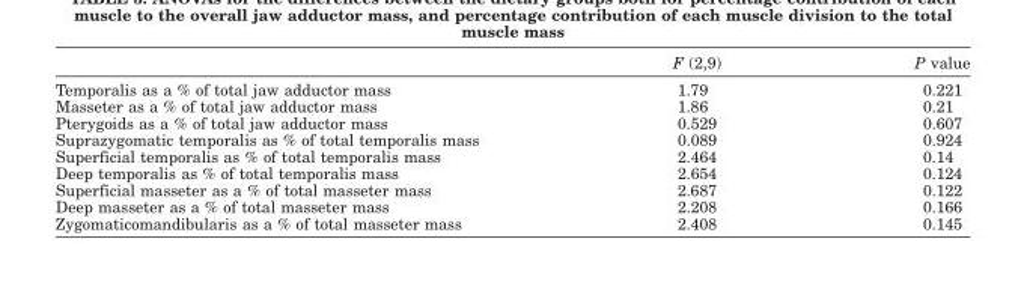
<table><thead><tr><td></td><td>F (2,9)</td><td>P value</td></tr></thead><tbody><tr><td>Temporalis as a % of total jaw adductor mass</td><td>1.79</td><td>0.221</td></tr><tr><td>Masseter as a % of total jaw adductor mass</td><td>1.86</td><td>0.21</td></tr><tr><td>Pterygoids as a % of total jaw adductor mass</td><td>0.529</td><td>0.607</td></tr><tr><td>Suprazygomatic temporalis as % of total temporalis mass</td><td>0.089</td><td>0.924</td></tr><tr><td>Superficial temporalis as % of total temporalis mass</td><td>2.464</td><td>0.14</td></tr><tr><td>Deep temporalis as % of total temporalis mass</td><td>2.654</td><td>0.124</td></tr><tr><td>Superficial masseter as a % of total masseter mass</td><td>2.687</td><td>0.122</td></tr><tr><td>Deep masseter as a % of total masseter mass</td><td>2.208</td><td>0.166</td></tr><tr><td>Zygomaticomandibularis as a % of total masseter mass</td><td>2.408</td><td>0.145</td></tr></tbody></table>